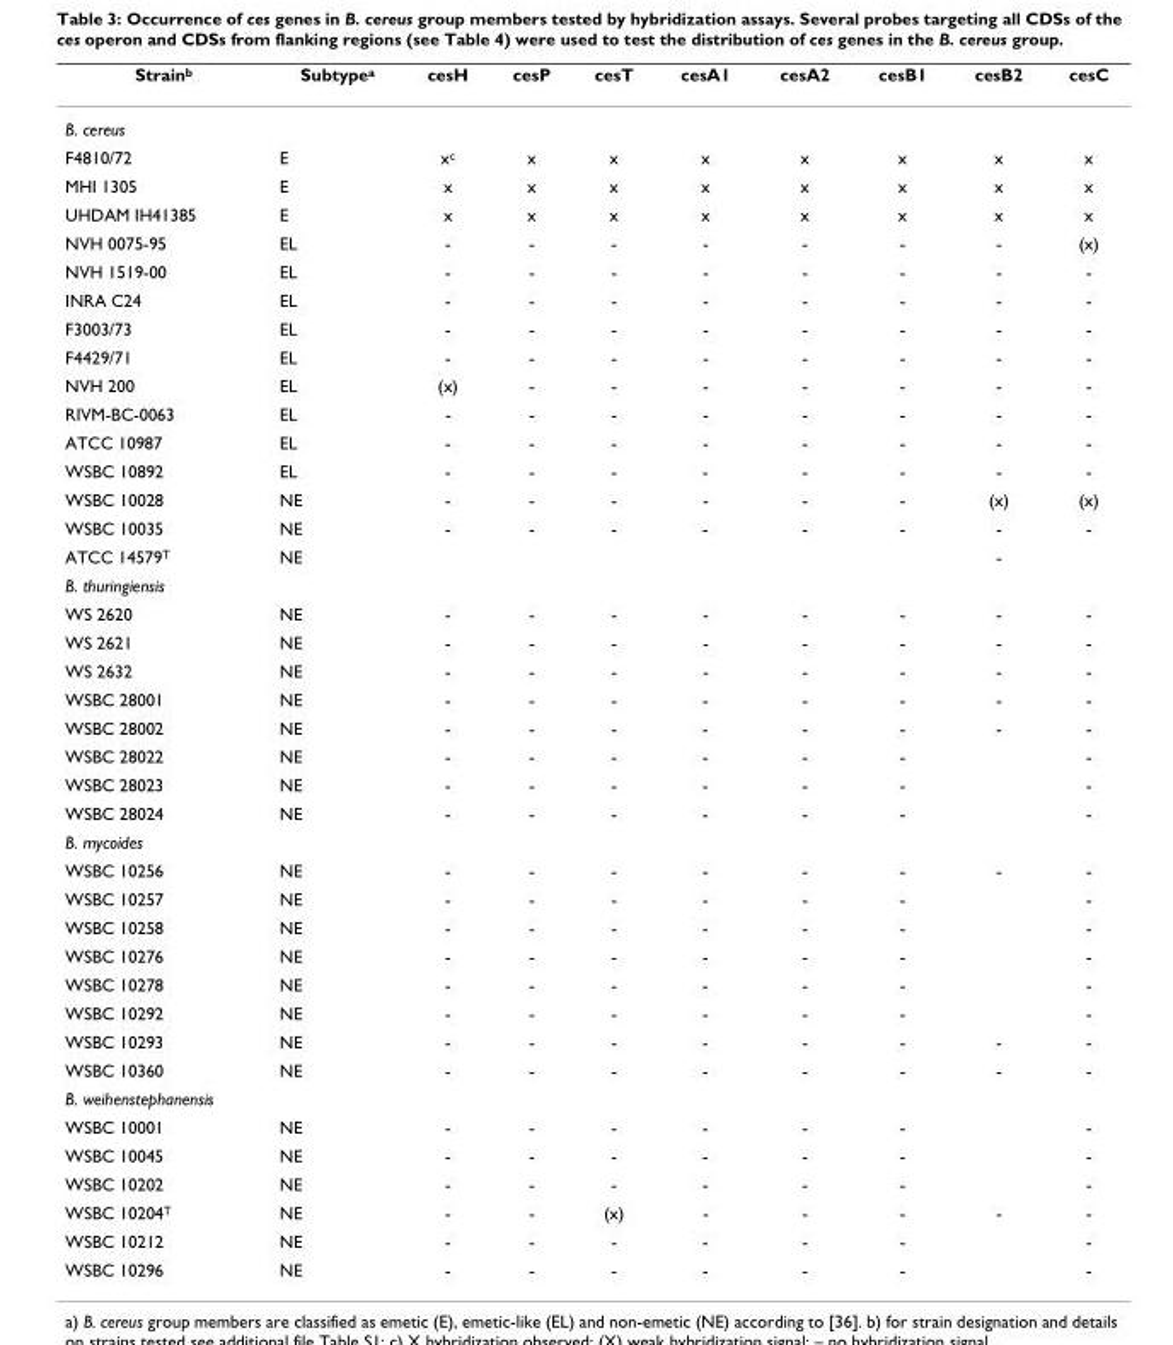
<table><thead><tr><td>Strainb</td><td>Subtypea</td><td>cesH</td><td>cesP</td><td>cesT</td><td>cesA1</td><td>cesA2</td><td>cesB1</td><td>cesB2</td><td>cesC</td></tr></thead><tbody><tr><td colspan="10">B. cereus</td></tr><tr><td>F4810/72</td><td>E</td><td>xc</td><td>x</td><td>x</td><td>x</td><td>x</td><td>x</td><td>x</td><td>x</td></tr><tr><td>MHI 1305</td><td>E</td><td>x</td><td>x</td><td>x</td><td>x</td><td>x</td><td>x</td><td>x</td><td>x</td></tr><tr><td>UHDAM IH41385</td><td>E</td><td>x</td><td>x</td><td>x</td><td>x</td><td>x</td><td>x</td><td>x</td><td>x</td></tr><tr><td>NVH 0075-95</td><td>EL</td><td>-</td><td>-</td><td>-</td><td>-</td><td>-</td><td>-</td><td>-</td><td>(x)</td></tr><tr><td>NVH 1519-00</td><td>EL</td><td>-</td><td>-</td><td>-</td><td>-</td><td>-</td><td>-</td><td>-</td><td>-</td></tr><tr><td>INRA C24</td><td>EL</td><td>-</td><td>-</td><td>-</td><td>-</td><td>-</td><td>-</td><td>-</td><td>-</td></tr><tr><td>F3003/73</td><td>EL</td><td>-</td><td>-</td><td>-</td><td>-</td><td>-</td><td>-</td><td>-</td><td>-</td></tr><tr><td>F4429/71</td><td>EL</td><td>-</td><td>-</td><td>-</td><td>-</td><td>-</td><td>-</td><td>-</td><td>-</td></tr><tr><td>NVH 200</td><td>EL</td><td>(x)</td><td>-</td><td>-</td><td>-</td><td>-</td><td>-</td><td>-</td><td>-</td></tr><tr><td>RIVM-BC-0063</td><td>EL</td><td>-</td><td>-</td><td>-</td><td>-</td><td>-</td><td>-</td><td>-</td><td>-</td></tr><tr><td>ATCC 10987</td><td>EL</td><td>-</td><td>-</td><td>-</td><td>-</td><td>-</td><td>-</td><td>-</td><td>-</td></tr><tr><td>WSBC 10892</td><td>EL</td><td>-</td><td>-</td><td>-</td><td>-</td><td>-</td><td>-</td><td>-</td><td>-</td></tr><tr><td>WSBC 10028</td><td>NE</td><td>-</td><td>-</td><td>-</td><td>-</td><td>-</td><td>-</td><td>(x)</td><td>(x)</td></tr><tr><td>WSBC 10035</td><td>NE</td><td>-</td><td>-</td><td>-</td><td>-</td><td>-</td><td>-</td><td>-</td><td>-</td></tr><tr><td>ATCC 14579T</td><td>NE</td><td></td><td></td><td></td><td></td><td></td><td></td><td>-</td><td></td></tr><tr><td colspan="10">B. thuringiensis</td></tr><tr><td>WS 2620</td><td>NE</td><td>-</td><td>-</td><td>-</td><td>-</td><td>-</td><td>-</td><td>-</td><td>-</td></tr><tr><td>WS 2621</td><td>NE</td><td>-</td><td>-</td><td>-</td><td>-</td><td>-</td><td>-</td><td>-</td><td>-</td></tr><tr><td>WS 2632</td><td>NE</td><td>-</td><td>-</td><td>-</td><td>-</td><td>-</td><td>-</td><td>-</td><td>-</td></tr><tr><td>WSBC 28001</td><td>NE</td><td>-</td><td>-</td><td>-</td><td>-</td><td>-</td><td>-</td><td>-</td><td>-</td></tr><tr><td>WSBC 28002</td><td>NE</td><td>-</td><td>-</td><td>-</td><td>-</td><td>-</td><td>-</td><td>-</td><td>-</td></tr><tr><td>WSBC 28022</td><td>NE</td><td>-</td><td>-</td><td>-</td><td>-</td><td>-</td><td>-</td><td></td><td>-</td></tr><tr><td>WSBC 28023</td><td>NE</td><td>-</td><td>-</td><td>-</td><td>-</td><td>-</td><td>-</td><td></td><td>-</td></tr><tr><td>WSBC 28024</td><td>NE</td><td>-</td><td>-</td><td>-</td><td>-</td><td>-</td><td>-</td><td></td><td>-</td></tr><tr><td colspan="10">B. mycoides</td></tr><tr><td>WSBC 10256</td><td>NE</td><td>-</td><td>-</td><td>-</td><td>-</td><td>-</td><td>-</td><td>-</td><td>-</td></tr><tr><td>WSBC 10257</td><td>NE</td><td>-</td><td>-</td><td>-</td><td>-</td><td>-</td><td>-</td><td></td><td>-</td></tr><tr><td>WSBC 10258</td><td>NE</td><td>-</td><td>-</td><td>-</td><td>-</td><td>-</td><td>-</td><td></td><td>-</td></tr><tr><td>WSBC 10276</td><td>NE</td><td>-</td><td>-</td><td>-</td><td>-</td><td>-</td><td>-</td><td></td><td>-</td></tr><tr><td>WSBC 10278</td><td>NE</td><td>-</td><td>-</td><td>-</td><td>-</td><td>-</td><td>-</td><td></td><td>-</td></tr><tr><td>WSBC 10292</td><td>NE</td><td>-</td><td>-</td><td>-</td><td>-</td><td>-</td><td>-</td><td></td><td>-</td></tr><tr><td>WSBC 10293</td><td>NE</td><td>-</td><td>-</td><td>-</td><td>-</td><td>-</td><td>-</td><td>-</td><td>-</td></tr><tr><td>WSBC 10360</td><td>NE</td><td>-</td><td>-</td><td>-</td><td>-</td><td>-</td><td>-</td><td>-</td><td>-</td></tr><tr><td colspan="10">B. weihenstephanensis</td></tr><tr><td>WSBC 10001</td><td>NE</td><td>-</td><td>-</td><td>-</td><td>-</td><td>-</td><td>-</td><td></td><td>-</td></tr><tr><td>WSBC 10045</td><td>NE</td><td>-</td><td>-</td><td>-</td><td>-</td><td>-</td><td>-</td><td></td><td>-</td></tr><tr><td>WSBC 10202</td><td>NE</td><td>-</td><td>-</td><td>-</td><td>-</td><td>-</td><td>-</td><td></td><td>-</td></tr><tr><td>WSBC 10204T</td><td>NE</td><td>-</td><td>-</td><td>(x)</td><td>-</td><td>-</td><td>-</td><td>-</td><td>-</td></tr><tr><td>WSBC 10212</td><td>NE</td><td>-</td><td>-</td><td>-</td><td>-</td><td>-</td><td>-</td><td></td><td>-</td></tr><tr><td>WSBC 10296</td><td>NE</td><td>-</td><td>-</td><td>-</td><td>-</td><td>-</td><td>-</td><td></td><td>-</td></tr></tbody></table>